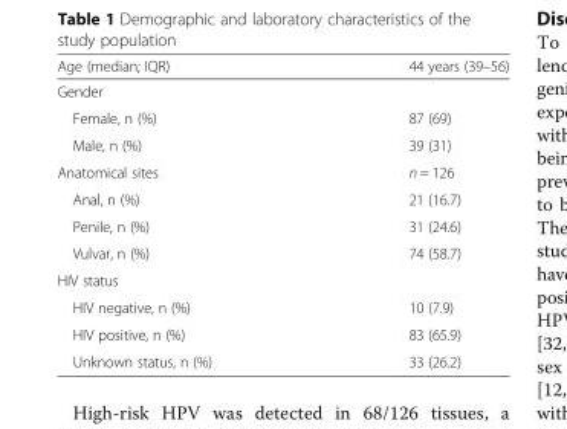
<table><thead><tr><td>Age (median; IQR)</td><td>44 years (39–56)</td></tr></thead><tbody><tr><td colspan="2">Gender</td></tr><tr><td>Female, n (%)</td><td>87 (69)</td></tr><tr><td>Male, n (%)</td><td>39 (31)</td></tr><tr><td>Anatomical sites</td><td>n = 126</td></tr><tr><td>Anal, n (%)</td><td>21 (16.7)</td></tr><tr><td>Penile, n (%)</td><td>31 (24.6)</td></tr><tr><td>Vulvar, n (%)</td><td>74 (58.7)</td></tr><tr><td colspan="2">HIV status</td></tr><tr><td>HIV negative, n (%)</td><td>10 (7.9)</td></tr><tr><td>HIV positive, n (%)</td><td>83 (65.9)</td></tr><tr><td>Unknown status, n (%)</td><td>33 (26.2)</td></tr></tbody></table>